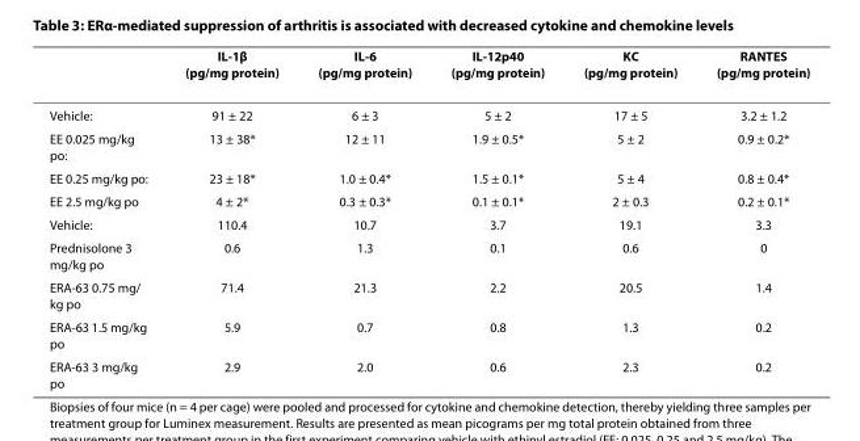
<table><thead><tr><td></td><td>IL-1β (pg/mg protein)</td><td>IL-6 (pg/mg protein)</td><td>IL-12p40 (pg/mg protein)</td><td>KC (pg/mg protein)</td><td>RANTES (pg/mg protein)</td></tr></thead><tbody><tr><td>Vehicle:</td><td>91 ± 22</td><td>6 ± 3</td><td>5 ± 2</td><td>17 ± 5</td><td>3.2 ± 1.2</td></tr><tr><td>EE 0.025 mg/kg po:</td><td>13 ± 38*</td><td>12 ± 11</td><td>1.9 ± 0.5*</td><td>5 ± 2</td><td>0.9 ± 0.2*</td></tr><tr><td>EE 0.25 mg/kg po:</td><td>23 ± 18*</td><td>1.0 ± 0.4*</td><td>1.5 ± 0.1*</td><td>5 ± 4</td><td>0.8 ± 0.4*</td></tr><tr><td>EE 2.5 mg/kg po</td><td>4 ± 2*</td><td>0.3 ± 0.3*</td><td>0.1 ± 0.1*</td><td>2 ± 0.3</td><td>0.2 ± 0.1*</td></tr><tr><td>Vehicle:</td><td>110.4</td><td>10.7</td><td>3.7</td><td>19.1</td><td>3.3</td></tr><tr><td>Prednisolone 3 mg/kg po</td><td>0.6</td><td>1.3</td><td>0.1</td><td>0.6</td><td>0</td></tr><tr><td>ERA-63 0.75 mg/ kg po</td><td>71.4</td><td>21.3</td><td>2.2</td><td>20.5</td><td>1.4</td></tr><tr><td>ERA-63 1.5 mg/kg po</td><td>5.9</td><td>0.7</td><td>0.8</td><td>1.3</td><td>0.2</td></tr><tr><td>ERA-63 3 mg/kg po</td><td>2.9</td><td>2.0</td><td>0.6</td><td>2.3</td><td>0.2</td></tr></tbody></table>